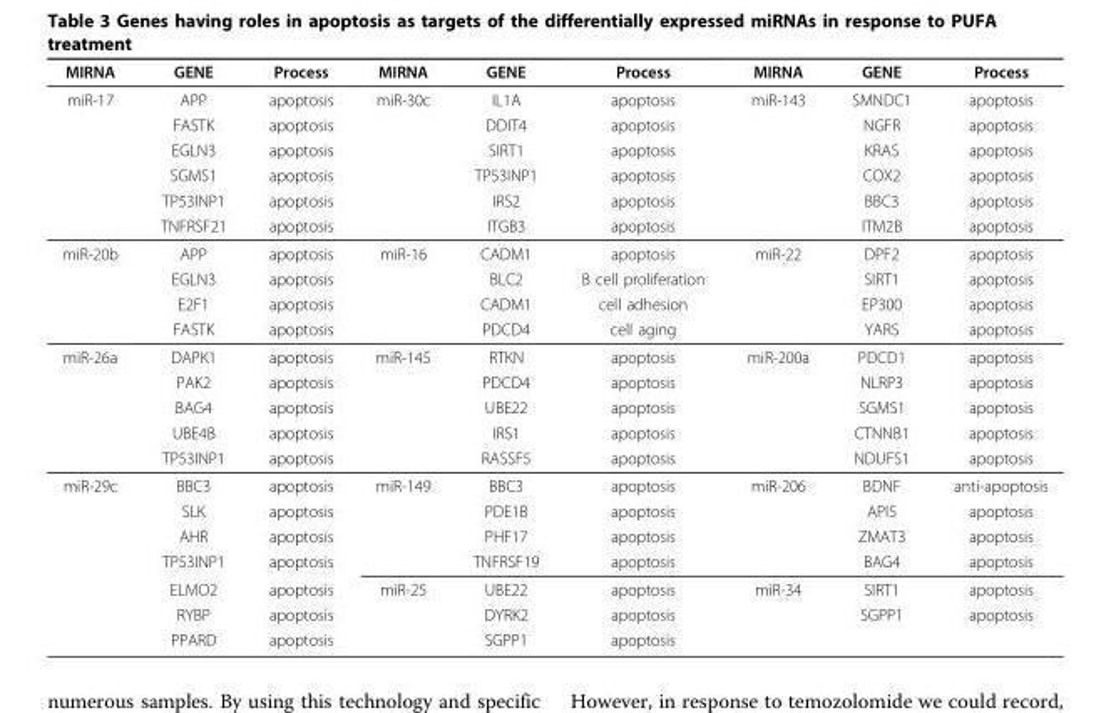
<table><thead><tr><td>MIRNA</td><td>GENE</td><td>Process</td><td>MIRNA</td><td>GENE</td><td>Process</td><td>MIRNA</td><td>GENE</td><td>Process</td></tr></thead><tbody><tr><td rowspan="6">miR-17</td><td>APP</td><td>apoptosis</td><td>miR-30c</td><td>IL1A</td><td>apoptosis</td><td>miR-143</td><td>SMNDC1</td><td>apoptosis</td></tr><tr><td>FASTK</td><td>apoptosis</td><td></td><td>DDIT4</td><td>apoptosis</td><td></td><td>NGFR</td><td>apoptosis</td></tr><tr><td>EGLN3</td><td>apoptosis</td><td></td><td>SIRT1</td><td>apoptosis</td><td></td><td>KRAS</td><td>apoptosis</td></tr><tr><td>SGMS1</td><td>apoptosis</td><td></td><td>TP53INP1</td><td>apoptosis</td><td></td><td>COX2</td><td>apoptosis</td></tr><tr><td>TP53INP1</td><td>apoptosis</td><td></td><td>IRS2</td><td>apoptosis</td><td></td><td>BBC3</td><td>apoptosis</td></tr><tr><td>TNFRSF21</td><td>apoptosis</td><td></td><td>ITGB3</td><td>apoptosis</td><td></td><td>ITM2B</td><td>apoptosis</td></tr><tr><td rowspan="4">miR-20b</td><td>APP</td><td>apoptosis</td><td>miR-16</td><td>CADM1</td><td>apoptosis</td><td>miR-22</td><td>DPF2</td><td>apoptosis</td></tr><tr><td>EGLN3</td><td>apoptosis</td><td></td><td>BLC2</td><td>B cell proliferation</td><td></td><td>SIRT1</td><td>apoptosis</td></tr><tr><td>E2F1</td><td>apoptosis</td><td></td><td>CADM1</td><td>cell adhesion</td><td></td><td>EP300</td><td>apoptosis</td></tr><tr><td>FASTK</td><td>apoptosis</td><td></td><td>PDCD4</td><td>cell aging</td><td></td><td>YARS</td><td>apoptosis</td></tr><tr><td rowspan="5">miR-26a</td><td>DAPK1</td><td>apoptosis</td><td>miR-145</td><td>RTKN</td><td>apoptosis</td><td>miR-200a</td><td>PDCD1</td><td>apoptosis</td></tr><tr><td>PAK2</td><td>apoptosis</td><td></td><td>PDCD4</td><td>apoptosis</td><td></td><td>NLRP3</td><td>apoptosis</td></tr><tr><td>BAG4</td><td>apoptosis</td><td></td><td>UBE22</td><td>apoptosis</td><td></td><td>SGMS1</td><td>apoptosis</td></tr><tr><td>UBE4B</td><td>apoptosis</td><td></td><td>IRS1</td><td>apoptosis</td><td></td><td>CTNNB1</td><td>apoptosis</td></tr><tr><td>TP53INP1</td><td>apoptosis</td><td></td><td>RASSF5</td><td>apoptosis</td><td></td><td>NDUFS1</td><td>apoptosis</td></tr><tr><td rowspan="7">miR-29c</td><td>BBC3</td><td>apoptosis</td><td>miR-149</td><td>BBC3</td><td>apoptosis</td><td>miR-206</td><td>BDNF</td><td>anti-apoptosis</td></tr><tr><td>SLK</td><td>apoptosis</td><td></td><td>PDE1B</td><td>apoptosis</td><td></td><td>API5</td><td>apoptosis</td></tr><tr><td>AHR</td><td>apoptosis</td><td></td><td>PHF17</td><td>apoptosis</td><td></td><td>ZMAT3</td><td>apoptosis</td></tr><tr><td>TP53INP1</td><td>apoptosis</td><td></td><td>TNFRSF19</td><td>apoptosis</td><td></td><td>BAG4</td><td>apoptosis</td></tr><tr><td>ELMO2</td><td>apoptosis</td><td>miR-25</td><td>UBE22</td><td>apoptosis</td><td>miR-34</td><td>SIRT1</td><td>apoptosis</td></tr><tr><td>RYBP</td><td>apoptosis</td><td></td><td>DYRK2</td><td>apoptosis</td><td></td><td>SGPP1</td><td>apoptosis</td></tr><tr><td>PPARD</td><td>apoptosis</td><td></td><td>SGPP1</td><td>apoptosis</td><td></td><td></td><td></td></tr></tbody></table>